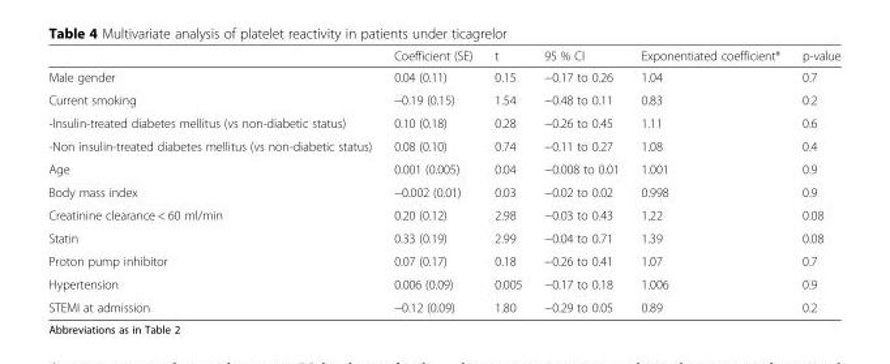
<table><thead><tr><td></td><td>Coefficient (SE)</td><td>t</td><td>95 % CI</td><td>Exponentiated coefficient*</td><td>p-value</td></tr></thead><tbody><tr><td>Male gender</td><td>0.04 (0.11)</td><td>0.15</td><td>−0.17 to 0.26</td><td>1.04</td><td>0.7</td></tr><tr><td>Current smoking</td><td>−0.19 (0.15)</td><td>1.54</td><td>−0.48 to 0.11</td><td>0.83</td><td>0.2</td></tr><tr><td>-Insulin-treated diabetes mellitus (vs non-diabetic status)</td><td>0.10 (0.18)</td><td>0.28</td><td>−0.26 to 0.45</td><td>1.11</td><td>0.6</td></tr><tr><td>-Non insulin-treated diabetes mellitus (vs non-diabetic status)</td><td>0.08 (0.10)</td><td>0.74</td><td>−0.11 to 0.27</td><td>1.08</td><td>0.4</td></tr><tr><td>Age</td><td>0.001 (0.005)</td><td>0.04</td><td>−0.008 to 0.01</td><td>1.001</td><td>0.9</td></tr><tr><td>Body mass index</td><td>−0.002 (0.01)</td><td>0.03</td><td>−0.02 to 0.02</td><td>0.998</td><td>0.9</td></tr><tr><td>Creatinine clearance &lt; 60 ml/min</td><td>0.20 (0.12)</td><td>2.98</td><td>−0.03 to 0.43</td><td>1.22</td><td>0.08</td></tr><tr><td>Statin</td><td>0.33 (0.19)</td><td>2.99</td><td>−0.04 to 0.71</td><td>1.39</td><td>0.08</td></tr><tr><td>Proton pump inhibitor</td><td>0.07 (0.17)</td><td>0.18</td><td>−0.26 to 0.41</td><td>1.07</td><td>0.7</td></tr><tr><td>Hypertension</td><td>0.006 (0.09)</td><td>0.005</td><td>−0.17 to 0.18</td><td>1.006</td><td>0.9</td></tr><tr><td>STEMI at admission</td><td>−0.12 (0.09)</td><td>1.80</td><td>−0.29 to 0.05</td><td>0.89</td><td>0.2</td></tr></tbody></table>